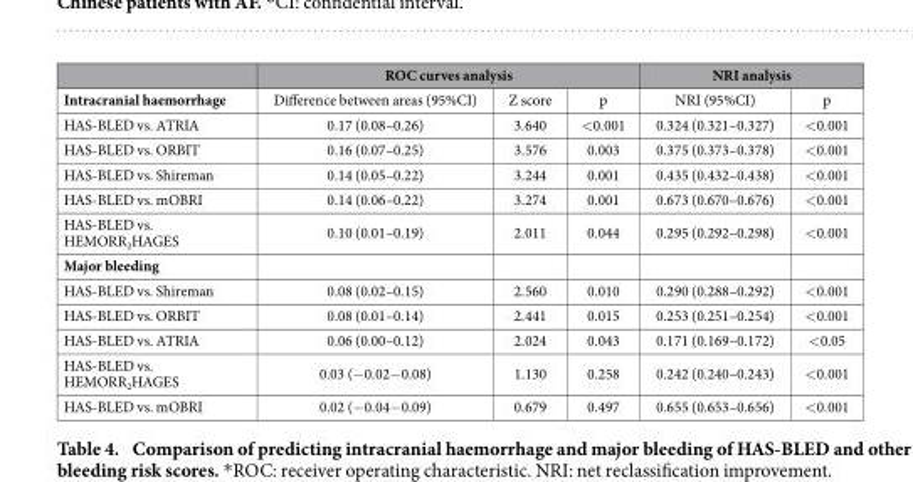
<table><thead><tr><td rowspan="2">Intracranial haemorrhage</td><td colspan="3">ROC curves analysis</td><td colspan="2">NRI analysis</td></tr><tr><td>Difference between areas (95%CI)</td><td>Z score</td><td>p</td><td>NRI (95%CI)</td><td>p</td></tr></thead><tbody><tr><td>HAS-BLED vs. ATRIA</td><td>0.17 (0.08–0.26)</td><td>3.640</td><td>&lt; 0.001</td><td>0.324 (0.321–0.327)</td><td>&lt; 0.001</td></tr><tr><td>HAS-BLED vs. ORBIT</td><td>0.16 (0.07–0.25)</td><td>3.576</td><td>0.003</td><td>0.375 (0.373–0.378)</td><td>&lt; 0.001</td></tr><tr><td>HAS-BLED vs. Shireman</td><td>0.14 (0.05–0.22)</td><td>3.244</td><td>0.001</td><td>0.435 (0.432–0.438)</td><td>&lt; 0.001</td></tr><tr><td>HAS-BLED vs. mOBRI</td><td>0.14 (0.06–0.22)</td><td>3.274</td><td>0.001</td><td>0.673 (0.670–0.676)</td><td>&lt; 0.001</td></tr><tr><td>HAS-BLED vs. HEMORR<sub>2</sub>HAGES</td><td>0.10 (0.01–0.19)</td><td>2.011</td><td>0.044</td><td>0.295 (0.292–0.298)</td><td>&lt; 0.001</td></tr><tr><td colspan="6">Major bleeding</td></tr><tr><td>HAS-BLED vs. Shireman</td><td>0.08 (0.02–0.15)</td><td>2.560</td><td>0.010</td><td>0.290 (0.288–0.292)</td><td>&lt; 0.001</td></tr><tr><td>HAS-BLED vs. ORBIT</td><td>0.08 (0.01–0.14)</td><td>2.441</td><td>0.015</td><td>0.253 (0.251–0.254)</td><td>&lt; 0.001</td></tr><tr><td>HAS-BLED vs. ATRIA</td><td>0.06 (0.00–0.12)</td><td>2.024</td><td>0.043</td><td>0.171 (0.169–0.172)</td><td>&lt; 0.05</td></tr><tr><td>HAS-BLED vs. HEMORR<sub>2</sub>HAGES</td><td>0.03 (− 0.02− 0.08)</td><td>1.130</td><td>0.258</td><td>0.242 (0.240–0.243)</td><td>&lt; 0.001</td></tr><tr><td>HAS-BLED vs. mOBRI</td><td>0.02 (− 0.04− 0.09)</td><td>0.679</td><td>0.497</td><td>0.655 (0.653–0.656)</td><td>&lt; 0.001</td></tr></tbody></table>